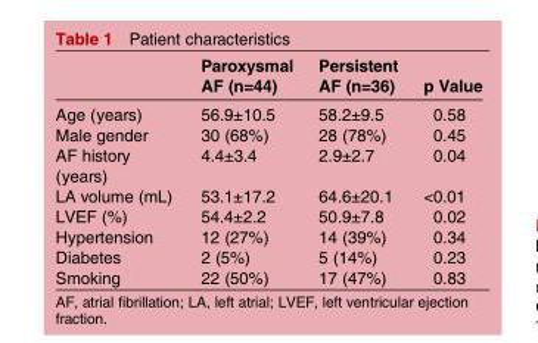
<table><thead><tr><td></td><td>Paroxysmal AF (n=44)</td><td>Persistent AF (n=36)</td><td>p Value</td></tr></thead><tbody><tr><td>Age (years)</td><td>56.9±10.5</td><td>58.2±9.5</td><td>0.58</td></tr><tr><td>Male gender</td><td>30 (68%)</td><td>28 (78%)</td><td>0.45</td></tr><tr><td>AF history (years)</td><td>4.4±3.4</td><td>2.9±2.7</td><td>0.04</td></tr><tr><td>LA volume (mL)</td><td>53.1±17.2</td><td>64.6±20.1</td><td>&lt;0.01</td></tr><tr><td>LVEF (%)</td><td>54.4±2.2</td><td>50.9±7.8</td><td>0.02</td></tr><tr><td>Hypertension</td><td>12 (27%)</td><td>14 (39%)</td><td>0.34</td></tr><tr><td>Diabetes</td><td>2 (5%)</td><td>5 (14%)</td><td>0.23</td></tr><tr><td>Smoking</td><td>22 (50%)</td><td>17 (47%)</td><td>0.83</td></tr></tbody></table>